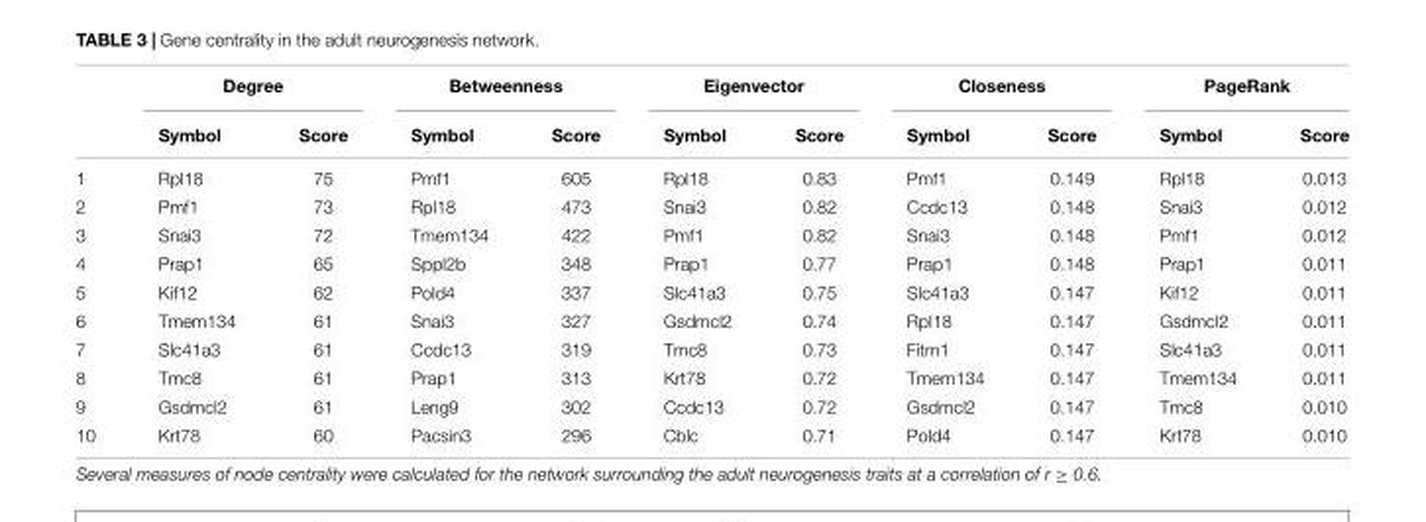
<table><thead><tr><td rowspan="2"></td><td colspan="2">Degree</td><td colspan="2">Betweenness</td><td colspan="2">Eigenvector</td><td colspan="2">Closeness</td><td colspan="2">PageRank</td></tr><tr><td>Symbol</td><td>Score</td><td>Symbol</td><td>Score</td><td>Symbol</td><td>Score</td><td>Symbol</td><td>Score</td><td>Symbol</td><td>Score</td></tr></thead><tbody><tr><td>1</td><td>Rpl18</td><td>75</td><td>Pmf1</td><td>605</td><td>Rpl18</td><td>0.83</td><td>Pmf1</td><td>0.149</td><td>Rpl18</td><td>0.013</td></tr><tr><td>2</td><td>Pmf1</td><td>73</td><td>Rpl18</td><td>473</td><td>Snai3</td><td>0.82</td><td>Ccdc13</td><td>0.148</td><td>Snai3</td><td>0.012</td></tr><tr><td>3</td><td>Snai3</td><td>72</td><td>Tmem134</td><td>422</td><td>Pmf1</td><td>0.82</td><td>Snai3</td><td>0.148</td><td>Pmf1</td><td>0.012</td></tr><tr><td>4</td><td>Prap1</td><td>65</td><td>Sppl2b</td><td>348</td><td>Prap1</td><td>0.77</td><td>Prap1</td><td>0.148</td><td>Prap1</td><td>0.011</td></tr><tr><td>5</td><td>Kif12</td><td>62</td><td>Pold4</td><td>337</td><td>Slc41a3</td><td>0.75</td><td>Slc41a3</td><td>0.147</td><td>Kif12</td><td>0.011</td></tr><tr><td>6</td><td>Tmem134</td><td>61</td><td>Snai3</td><td>327</td><td>Gsdmcl2</td><td>0.74</td><td>Rpl18</td><td>0.147</td><td>Gsdmcl2</td><td>0.011</td></tr><tr><td>7</td><td>Slc41a3</td><td>61</td><td>Ccdc13</td><td>319</td><td>Tmc8</td><td>0.73</td><td>Fitm1</td><td>0.147</td><td>Slc41a3</td><td>0.011</td></tr><tr><td>8</td><td>Tmc8</td><td>61</td><td>Prap1</td><td>313</td><td>Krt78</td><td>0.72</td><td>Tmem134</td><td>0.147</td><td>Tmem134</td><td>0.011</td></tr><tr><td>9</td><td>Gsdmcl2</td><td>61</td><td>Leng9</td><td>302</td><td>Ccdc13</td><td>0.72</td><td>Gsdmcl2</td><td>0.147</td><td>Tmc8</td><td>0.010</td></tr><tr><td>10</td><td>Krt78</td><td>60</td><td>Pacsin3</td><td>296</td><td>Cblc</td><td>0.71</td><td>Pold4</td><td>0.147</td><td>Krt78</td><td>0.010</td></tr></tbody></table>